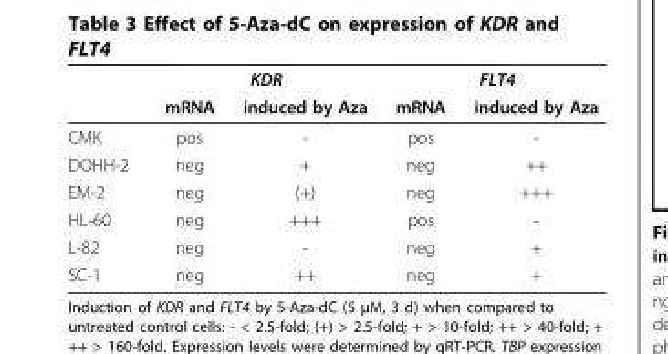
<table><thead><tr><td rowspan="2"></td><td colspan="2">KDR</td><td colspan="2">FLT4</td></tr><tr><td>mRNA</td><td>induced by Aza</td><td>mRNA</td><td>induced by Aza</td></tr></thead><tbody><tr><td>CMK</td><td>pos</td><td>-</td><td>pos</td><td>-</td></tr><tr><td>DOHH-2</td><td>neg</td><td>+</td><td>neg</td><td>++</td></tr><tr><td>EM-2</td><td>neg</td><td>(+)</td><td>neg</td><td>+++</td></tr><tr><td>HL-60</td><td>neg</td><td>+++</td><td>pos</td><td>-</td></tr><tr><td>L-82</td><td>neg</td><td>-</td><td>neg</td><td>+</td></tr><tr><td>SC-1</td><td>neg</td><td>++</td><td>neg</td><td>+</td></tr></tbody></table>